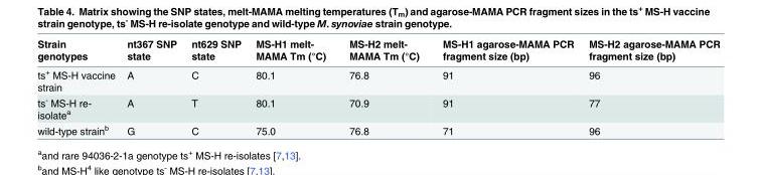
<table><thead><tr><td>Strain genotypes</td><td>nt367 SNP state</td><td>nt629 SNP state</td><td>MS-H1 melt- MAMA Tm (°C)</td><td>MS-H2 melt- MAMA Tm (°C)</td><td>MS-H1 agarose-MAMA PCR fragment size (bp)</td><td>MS-H2 agarose-MAMA PCR fragment size (bp)</td></tr></thead><tbody><tr><td>ts<sup>+</sup> MS-H vaccine strain</td><td>A</td><td>C</td><td>80.1</td><td>76.8</td><td>91</td><td>96</td></tr><tr><td>ts<sup>-</sup> MS-H re- isolate<sup>a</sup></td><td>A</td><td>T</td><td>80.1</td><td>70.9</td><td>91</td><td>77</td></tr><tr><td>wild-type strain<sup>b</sup></td><td>G</td><td>C</td><td>75.0</td><td>76.8</td><td>71</td><td>96</td></tr></tbody></table>